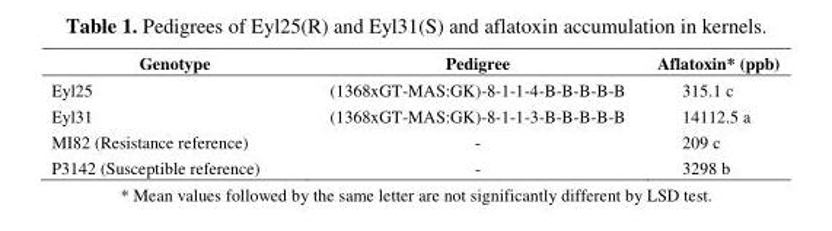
<table><thead><tr><td>Genotype</td><td>Pedigree</td><td>Aflatoxin* (ppb)</td></tr></thead><tbody><tr><td>Eyl25</td><td>(1368xGT-MAS:GK)-8-1-1-4-B-B-B-B-B</td><td>315.1 c</td></tr><tr><td>Eyl31</td><td>(1368xGT-MAS:GK)-8-1-1-3-B-B-B-B-B</td><td>14112.5 a</td></tr><tr><td>MI82 (Resistance reference)</td><td>-</td><td>209 c</td></tr><tr><td>P3142 (Susceptible reference)</td><td>-</td><td>3298 b</td></tr></tbody></table>